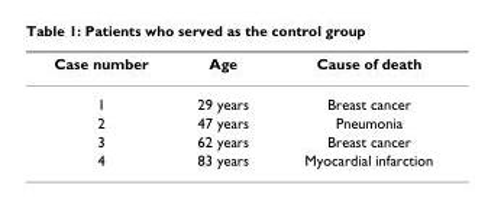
<table><thead><tr><td>Case number</td><td>Age</td><td>Cause of death</td></tr></thead><tbody><tr><td>1</td><td>29 years</td><td>Breast cancer</td></tr><tr><td>2</td><td>47 years</td><td>Pneumonia</td></tr><tr><td>3</td><td>62 years</td><td>Breast cancer</td></tr><tr><td>4</td><td>83 years</td><td>Myocardial infarction</td></tr></tbody></table>